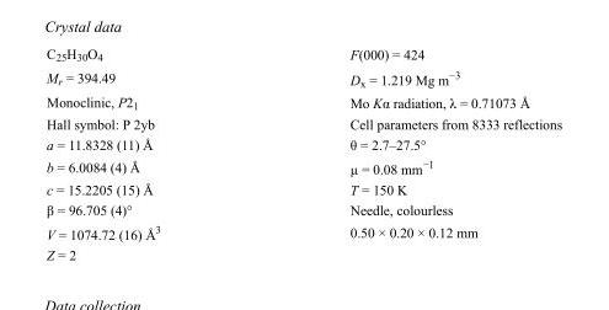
<table><tbody><tr><td>C<sub>25</sub>H<sub>30</sub>O<sub>4</sub></td><td>F(000) = 424</td></tr><tr><td>M<sub>r</sub> = 394.49</td><td>D<sub>x</sub> = 1.219 Mg m<sup>−3</sup></td></tr><tr><td>Monoclinic, P2<sub>1</sub></td><td>Mo Kα radiation, λ = 0.71073 Å</td></tr><tr><td>Hall symbol: P 2yb</td><td>Cell parameters from 8333 reflections</td></tr><tr><td>a = 11.8328 (11) Å</td><td>θ = 2.7–27.5°</td></tr><tr><td>b = 6.0084 (4) Å</td><td>µ = 0.08 mm<sup>−1</sup></td></tr><tr><td>c = 15.2205 (15) Å</td><td>T = 150 K</td></tr><tr><td>β = 96.705 (4)°</td><td>Needle, colourless</td></tr><tr><td>V = 1074.72 (16) Å<sup>3</sup></td><td>0.50 × 0.20 × 0.12 mm</td></tr><tr><td>Z = 2</td><td></td></tr></tbody></table>